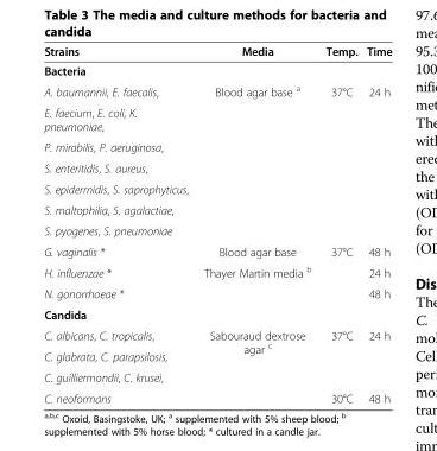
<table><thead><tr><td>Strains</td><td>Media</td><td>Temp.</td><td>Time</td></tr></thead><tbody><tr><td colspan="4">Bacteria</td></tr><tr><td>A. baumannii, E. faecalis,</td><td rowspan="7">Blood agar base <sup>a</sup></td><td rowspan="7">37°C</td><td rowspan="7">24 h</td></tr><tr><td>E. faecium, E. coli, K. pneumoniae,</td></tr><tr><td>P. mirabilis, P. aeruginosa,</td></tr><tr><td>S. enteritidis, S. aureus,</td></tr><tr><td>S. epidermidis, S. saprophyticus,</td></tr><tr><td>S. maltophilia, S. agalactiae,</td></tr><tr><td>S. pyogenes, S. pneumoniae</td></tr><tr><td>G. vaginalis *</td><td>Blood agar base</td><td rowspan="3">37°C</td><td>48 h</td></tr><tr><td>H. influenzae *</td><td rowspan="2">Thayer Martin media <sup>b</sup></td><td>24 h</td></tr><tr><td>N. gonorrhoeae *</td><td>48 h</td></tr><tr><td colspan="4">Candida</td></tr><tr><td>C. albicans, C. tropicalis,</td><td rowspan="4">Sabouraud dextrose agar <sup>c</sup></td><td rowspan="3">37°C</td><td rowspan="3">24 h</td></tr><tr><td>C. glabrata, C. parapsilosis,</td></tr><tr><td>C. guilliermondii, C. krusei,</td></tr><tr><td>C. neoformans</td><td>30°C</td><td>48 h</td></tr></tbody></table>